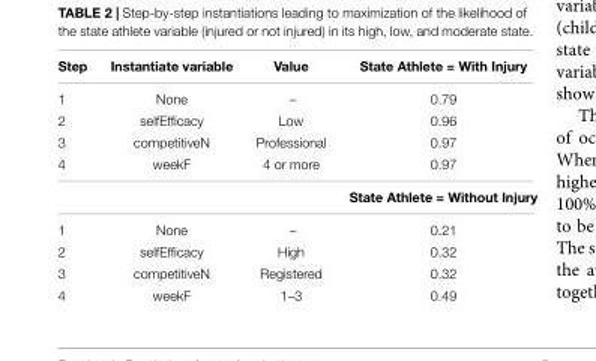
<table><thead><tr><td>Step</td><td>Instantiate variable</td><td>Value</td><td>State Athlete = With Injury</td></tr></thead><tbody><tr><td>1</td><td>None</td><td>–</td><td>0.79</td></tr><tr><td>2</td><td>selfEfficacy</td><td>Low</td><td>0.96</td></tr><tr><td>3</td><td>competitiveN</td><td>Professional</td><td>0.97</td></tr><tr><td rowspan="2">4</td><td>weekF</td><td>4 or more</td><td>0.97</td></tr><tr><td></td><td></td><td>State Athlete = Without Injury</td></tr><tr><td>1</td><td>None</td><td>–</td><td>0.21</td></tr><tr><td>2</td><td>selfEfficacy</td><td>High</td><td>0.32</td></tr><tr><td>3</td><td>competitiveN</td><td>Registered</td><td>0.32</td></tr><tr><td>4</td><td>weekF</td><td>1–3</td><td>0.49</td></tr></tbody></table>